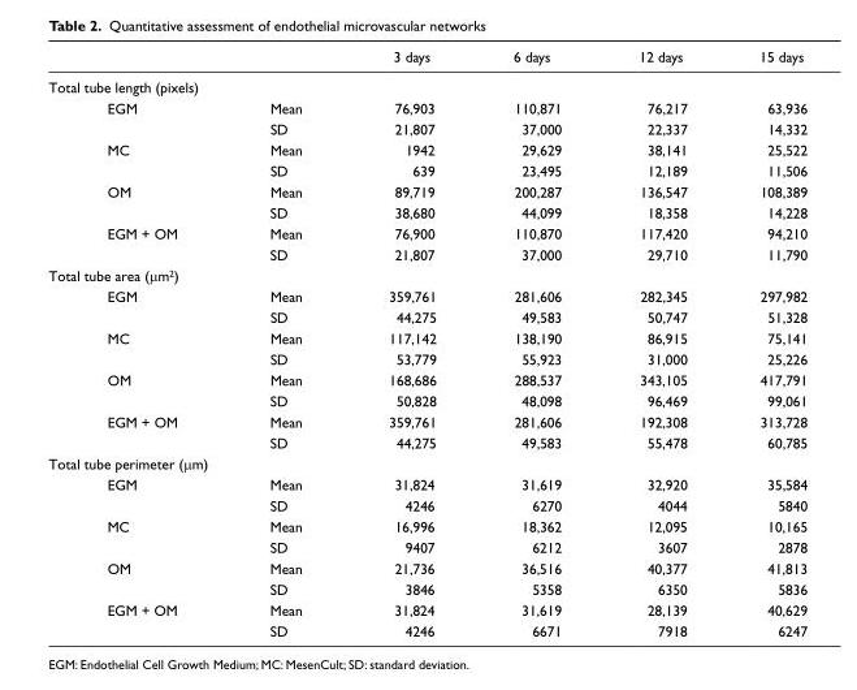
<table><thead><tr><td></td><td></td><td>3 days</td><td>6 days</td><td>12 days</td><td>15 days</td></tr></thead><tbody><tr><td colspan="6">Total tube length (pixels)</td></tr><tr><td rowspan="2">EGM</td><td>Mean</td><td>76,903</td><td>110,871</td><td>76,217</td><td>63,936</td></tr><tr><td>SD</td><td>21,807</td><td>37,000</td><td>22,337</td><td>14,332</td></tr><tr><td rowspan="2">MC</td><td>Mean</td><td>1942</td><td>29,629</td><td>38,141</td><td>25,522</td></tr><tr><td>SD</td><td>639</td><td>23,495</td><td>12,189</td><td>11,506</td></tr><tr><td rowspan="2">OM</td><td>Mean</td><td>89,719</td><td>200,287</td><td>136,547</td><td>108,389</td></tr><tr><td>SD</td><td>38,680</td><td>44,099</td><td>18,358</td><td>14,228</td></tr><tr><td rowspan="2">EGM + OM</td><td>Mean</td><td>76,900</td><td>110,870</td><td>117,420</td><td>94,210</td></tr><tr><td>SD</td><td>21,807</td><td>37,000</td><td>29,710</td><td>11,790</td></tr><tr><td colspan="6">Total tube area (µm<sup>2</sup>)</td></tr><tr><td rowspan="2">EGM</td><td>Mean</td><td>359,761</td><td>281,606</td><td>282,345</td><td>297,982</td></tr><tr><td>SD</td><td>44,275</td><td>49,583</td><td>50,747</td><td>51,328</td></tr><tr><td rowspan="2">MC</td><td>Mean</td><td>117,142</td><td>138,190</td><td>86,915</td><td>75,141</td></tr><tr><td>SD</td><td>53,779</td><td>55,923</td><td>31,000</td><td>25,226</td></tr><tr><td rowspan="2">OM</td><td>Mean</td><td>168,686</td><td>288,537</td><td>343,105</td><td>417,791</td></tr><tr><td>SD</td><td>50,828</td><td>48,098</td><td>96,469</td><td>99,061</td></tr><tr><td rowspan="2">EGM + OM</td><td>Mean</td><td>359,761</td><td>281,606</td><td>192,308</td><td>313,728</td></tr><tr><td>SD</td><td>44,275</td><td>49,583</td><td>55,478</td><td>60,785</td></tr><tr><td colspan="6">Total tube perimeter (µm)</td></tr><tr><td rowspan="2">EGM</td><td>Mean</td><td>31,824</td><td>31,619</td><td>32,920</td><td>35,584</td></tr><tr><td>SD</td><td>4246</td><td>6270</td><td>4044</td><td>5840</td></tr><tr><td rowspan="2">MC</td><td>Mean</td><td>16,996</td><td>18,362</td><td>12,095</td><td>10,165</td></tr><tr><td>SD</td><td>9407</td><td>6212</td><td>3607</td><td>2878</td></tr><tr><td rowspan="2">OM</td><td>Mean</td><td>21,736</td><td>36,516</td><td>40,377</td><td>41,813</td></tr><tr><td>SD</td><td>3846</td><td>5358</td><td>6350</td><td>5836</td></tr><tr><td rowspan="2">EGM + OM</td><td>Mean</td><td>31,824</td><td>31,619</td><td>28,139</td><td>40,629</td></tr><tr><td>SD</td><td>4246</td><td>6671</td><td>7918</td><td>6247</td></tr></tbody></table>